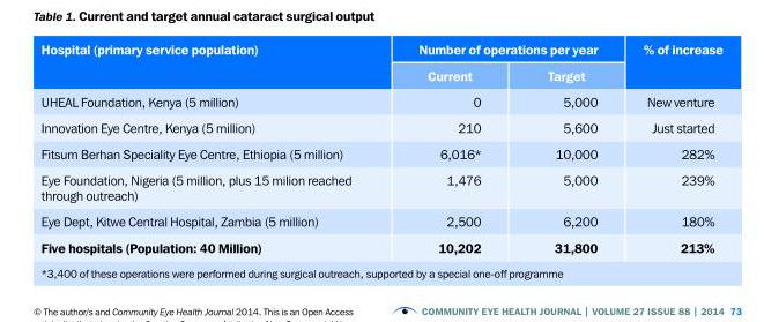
<table><thead><tr><td rowspan="2">Hospital (primary service population)</td><td colspan="2">Number of operations per year</td><td rowspan="2">% of increase</td></tr><tr><td>Current</td><td>Target</td></tr></thead><tbody><tr><td>UHEAL Foundation, Kenya (5 million)</td><td>0</td><td>5,000</td><td>New venture</td></tr><tr><td>Innovation Eye Centre, Kenya (5 million)</td><td>210</td><td>5,600</td><td>Just started</td></tr><tr><td>Fitsum Berhan Speciality Eye Centre, Ethiopia (5 million)</td><td>6,016*</td><td>10,000</td><td>282%</td></tr><tr><td>Eye Foundation, Nigeria (5 million, plus 15 milion reached through outreach)</td><td>1,476</td><td>5,000</td><td>239%</td></tr><tr><td>Eye Dept, Kitwe Central Hospital, Zambia (5 million)</td><td>2,500</td><td>6,200</td><td>180%</td></tr><tr><td>Five hospitals (Population: 40 Million)</td><td>10,202</td><td>31,800</td><td>213%</td></tr><tr><td colspan="4">*3,400 of these operations were performed during surgical outreach, supported by a special one-off programme</td></tr></tbody></table>